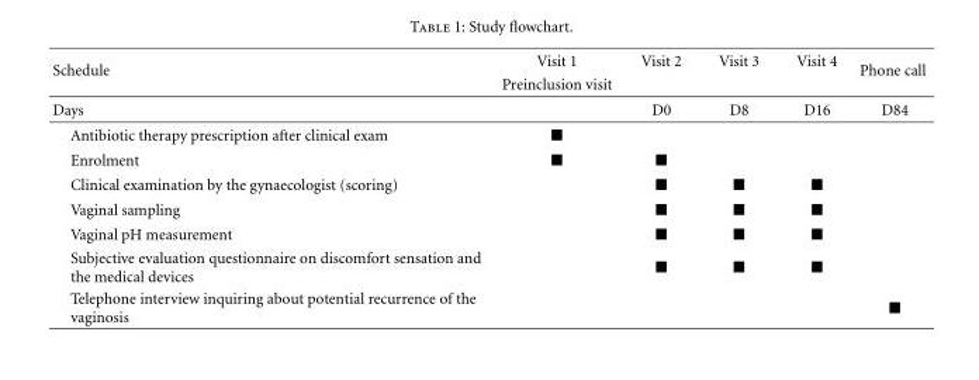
<table><thead><tr><td rowspan="2">Schedule</td><td rowspan="2">Visit 1 Preinclusion visit</td><td rowspan="2">Visit 2</td><td rowspan="2">Visit 3</td><td rowspan="2">Visit 4</td><td rowspan="2">Phone call</td></tr><tr></tr></thead><tbody><tr><td>Days</td><td></td><td>D0</td><td>D8</td><td>D16</td><td>D84</td></tr><tr><td>Antibiotic therapy prescription after clinical exam</td><td>■</td><td></td><td></td><td></td><td></td></tr><tr><td>Enrolment</td><td>■</td><td>■</td><td></td><td></td><td></td></tr><tr><td>Clinical examination by the gynaecologist (scoring)</td><td></td><td>■</td><td>■</td><td>■</td><td></td></tr><tr><td>Vaginal sampling</td><td></td><td>■</td><td>■</td><td>■</td><td></td></tr><tr><td>Vaginal pH measurement</td><td></td><td>■</td><td>■</td><td>■</td><td></td></tr><tr><td>Subjective evaluation questionnaire on discomfort sensation and the medical devices</td><td></td><td>■</td><td>■</td><td>■</td><td></td></tr><tr><td>Telephone interview inquiring about potential recurrence of the vaginosis</td><td></td><td></td><td></td><td></td><td>■</td></tr></tbody></table>